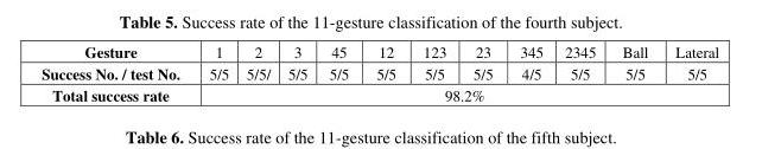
<table><tbody><tr><td>Gesture</td><td>1</td><td>2</td><td>3</td><td>45</td><td>12</td><td>123</td><td>23</td><td>345</td><td>2345</td><td>Ball</td><td>Lateral</td></tr><tr><td>Success No. / test No.</td><td>5/5</td><td>5/5/</td><td>5/5</td><td>5/5</td><td>5/5</td><td>5/5</td><td>5/5</td><td>4/5</td><td>5/5</td><td>5/5</td><td>5/5</td></tr><tr><td>Total success rate</td><td colspan="11">98.2%</td></tr></tbody></table>